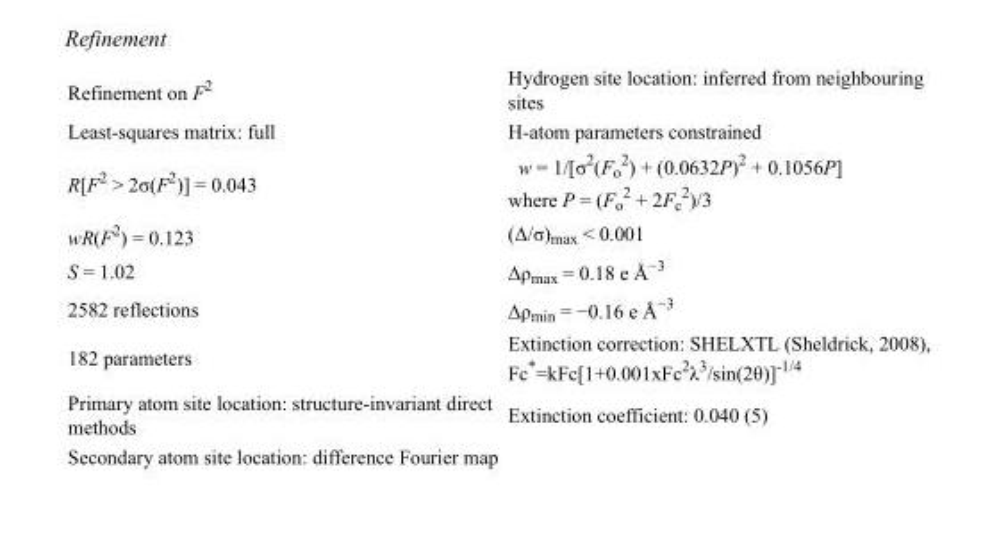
<table><tbody><tr><td>Refinement on F<sup>2</sup></td><td>Hydrogen site location: inferred from neighbouring sites</td></tr><tr><td>Least-squares matrix: full</td><td>H-atom parameters constrained</td></tr><tr><td>R[F<sup>2</sup> &gt; 2σ(F<sup>2</sup>)] = 0.043</td><td>w = 1/[σ<sup>2</sup>(F<sub>o</sub> <sup>2</sup>) + (0.0632P)<sup>2</sup> + 0.1056P] where P = (F<sub>o</sub> <sup>2</sup> + 2F<sub>c</sub> <sup>2</sup>)/3</td></tr><tr><td>wR(F<sup>2</sup>) = 0.123</td><td>(Δ/σ)<sub>max</sub> &lt; 0.001</td></tr><tr><td>S = 1.02</td><td>Δρ<sub>max</sub> = 0.18 e Å<sup>−3</sup></td></tr><tr><td>2582 reflections</td><td>Δρ<sub>min</sub> = −0.16 e Å<sup>−3</sup></td></tr><tr><td>182 parameters</td><td>Extinction correction: SHELXTL (Sheldrick, 2008), Fc*=kFc[1+0.001xFc<sup>2</sup>λ<sup>3</sup>/sin(2θ)]<sup>-1/4</sup></td></tr><tr><td>Primary atom site location: structure-invariant direct methods</td><td>Extinction coefficient: 0.040 (5)</td></tr><tr><td>Secondary atom site location: difference Fourier map</td><td></td></tr></tbody></table>